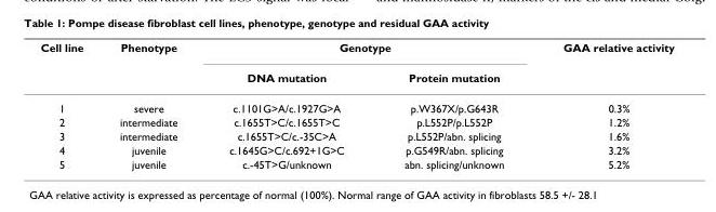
<table><thead><tr><td rowspan="2">Cell line</td><td rowspan="2">Phenotype</td><td colspan="2">Genotype</td><td rowspan="2">GAA relative activity</td></tr><tr><td>DNA mutation</td><td>Protein mutation</td></tr></thead><tbody><tr><td>1</td><td>severe</td><td>c.1101G&gt;A/c.1927G&gt;A</td><td>p.W367X/p.G643R</td><td>0.3%</td></tr><tr><td>2</td><td>intermediate</td><td>c.1655T&gt;C/c.1655T&gt;C</td><td>p.L552P/p.L552P</td><td>1.2%</td></tr><tr><td>3</td><td>intermediate</td><td>c.1655T&gt;C/c.-35C&gt;A</td><td>p.L552P/abn. splicing</td><td>1.6%</td></tr><tr><td>4</td><td>juvenile</td><td>c.1645G&gt;C/c.692+1G&gt;C</td><td>p.G549R/abn. splicing</td><td>3.2%</td></tr><tr><td>5</td><td>juvenile</td><td>c.-45T&gt;G/unknown</td><td>abn. splicing/unknown</td><td>5.2%</td></tr></tbody></table>